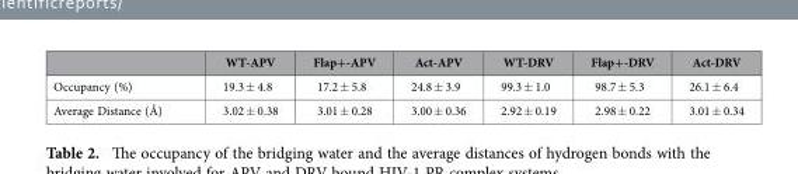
<table><thead><tr><td></td><td>WT-APV</td><td>Flap+-APV</td><td>Act-APV</td><td>WT-DRV</td><td>Flap+-DRV</td><td>Act-DRV</td></tr></thead><tbody><tr><td>Occupancy (%)</td><td>19.3 ± 4.8</td><td>17.2 ± 5.8</td><td>24.8 ± 3.9</td><td>99.3 ± 1.0</td><td>98.7 ± 5.3</td><td>26.1 ± 6.4</td></tr><tr><td>Average Distance (Å)</td><td>3.02 ± 0.38</td><td>3.01 ± 0.28</td><td>3.00 ± 0.36</td><td>2.92 ± 0.19</td><td>2.98 ± 0.22</td><td>3.01 ± 0.34</td></tr></tbody></table>